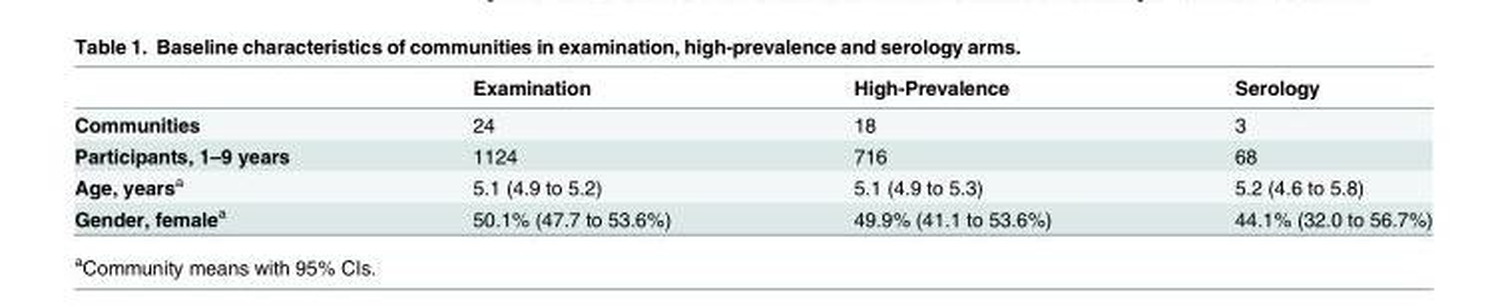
<table><thead><tr><td></td><td>Examination</td><td>High-Prevalence</td><td>Serology</td></tr></thead><tbody><tr><td>Communities</td><td>24</td><td>18</td><td>3</td></tr><tr><td>Participants, 1–9 years</td><td>1124</td><td>716</td><td>68</td></tr><tr><td>Age, years<sup>a</sup></td><td>5.1 (4.9 to 5.2)</td><td>5.1 (4.9 to 5.3)</td><td>5.2 (4.6 to 5.8)</td></tr><tr><td>Gender, female<sup>a</sup></td><td>50.1% (47.7 to 53.6%)</td><td>49.9% (41.1 to 53.6%)</td><td>44.1% (32.0 to 56.7%)</td></tr></tbody></table>